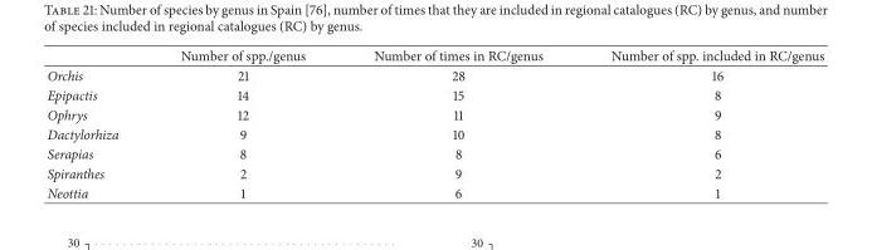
<table><thead><tr><td></td><td>Number of spp./genus</td><td>Number of times in RC/genus</td><td>Number of spp. included in RC/genus</td></tr></thead><tbody><tr><td>Orchis</td><td>21</td><td>28</td><td>16</td></tr><tr><td>Epipactis</td><td>14</td><td>15</td><td>8</td></tr><tr><td>Ophrys</td><td>12</td><td>11</td><td>9</td></tr><tr><td>Dactylorhiza</td><td>9</td><td>10</td><td>8</td></tr><tr><td>Serapias</td><td>8</td><td>8</td><td>6</td></tr><tr><td>Spiranthes</td><td>2</td><td>9</td><td>2</td></tr><tr><td>Neottia</td><td>1</td><td>6</td><td>1</td></tr></tbody></table>